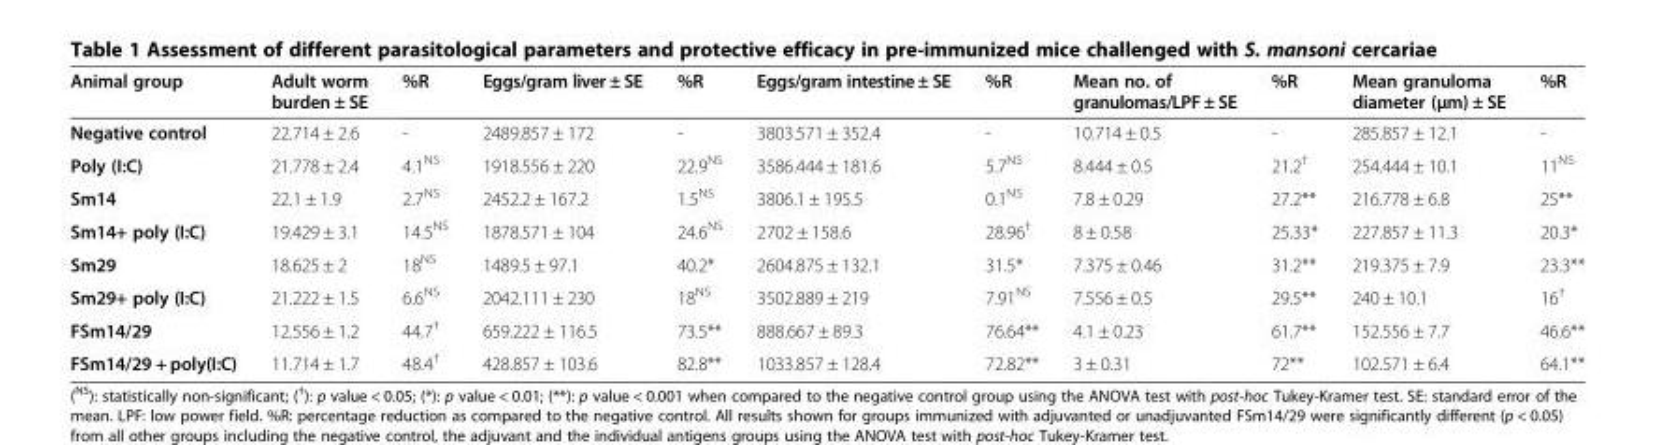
<table><thead><tr><td>Animal group</td><td>Adult worm burden ± SE</td><td>%R</td><td>Eggs/gram liver ± SE</td><td>%R</td><td>Eggs/gram intestine ± SE</td><td>%R</td><td>Mean no. of granulomas/LPF ± SE</td><td>%R</td><td>Mean granuloma diameter (μm) ± SE</td><td>%R</td></tr></thead><tbody><tr><td>Negative control</td><td>22.714 ± 2.6</td><td>-</td><td>2489.857 ± 172</td><td>-</td><td>3803.571 ± 352.4</td><td>-</td><td>10.714 ± 0.5</td><td>-</td><td>285.857 ± 12.1</td><td>-</td></tr><tr><td>Poly (I:C)</td><td>21.778 ± 2.4</td><td>4.1<sup>NS</sup></td><td>1918.556 ± 220</td><td>22.9<sup>NS</sup></td><td>3586.444 ± 181.6</td><td>5.7<sup>NS</sup></td><td>8.444 ± 0.5</td><td>21.2<sup>†</sup></td><td>254.444 ± 10.1</td><td>11<sup>NS</sup></td></tr><tr><td>Sm14</td><td>22.1 ± 1.9</td><td>2.7<sup>NS</sup></td><td>2452.2 ± 167.2</td><td>1.5<sup>NS</sup></td><td>3806.1 ± 195.5</td><td>0.1<sup>NS</sup></td><td>7.8 ± 0.29</td><td>27.2**</td><td>216.778 ± 6.8</td><td>25**</td></tr><tr><td>Sm14+ poly (I:C)</td><td>19.429 ± 3.1</td><td>14.5<sup>NS</sup></td><td>1878.571 ± 104</td><td>24.6<sup>NS</sup></td><td>2702 ± 158.6</td><td>28.96<sup>†</sup></td><td>8 ± 0.58</td><td>25.33*</td><td>227.857 ± 11.3</td><td>20.3*</td></tr><tr><td>Sm29</td><td>18.625 ± 2</td><td>18<sup>NS</sup></td><td>1489.5 ± 97.1</td><td>40.2*</td><td>2604.875 ± 132.1</td><td>31.5*</td><td>7.375 ± 0.46</td><td>31.2**</td><td>219.375 ± 7.9</td><td>23.3**</td></tr><tr><td>Sm29+ poly (I:C)</td><td>21.222 ± 1.5</td><td>6.6<sup>NS</sup></td><td>2042.111 ± 230</td><td>18<sup>NS</sup></td><td>3502.889 ± 219</td><td>7.91<sup>NS</sup></td><td>7.556 ± 0.5</td><td>29.5**</td><td>240 ± 10.1</td><td>16<sup>†</sup></td></tr><tr><td>FSm14/29</td><td>12.556 ± 1.2</td><td>44.7<sup>†</sup></td><td>659.222 ± 116.5</td><td>73.5**</td><td>888.667 ± 89.3</td><td>76.64**</td><td>4.1 ± 0.23</td><td>61.7**</td><td>152.556 ± 7.7</td><td>46.6**</td></tr><tr><td>FSm14/29 + poly(I:C)</td><td>11.714 ± 1.7</td><td>48.4<sup>†</sup></td><td>428.857 ± 103.6</td><td>82.8**</td><td>1033.857 ± 128.4</td><td>72.82**</td><td>3 ± 0.31</td><td>72**</td><td>102.571 ± 6.4</td><td>64.1**</td></tr></tbody></table>